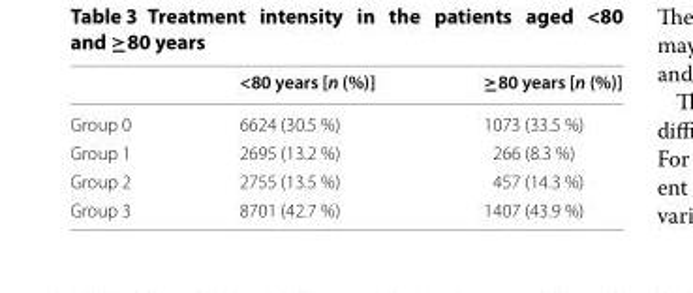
<table><thead><tr><td></td><td>&lt;80 years [n (%)]</td><td>≥80 years [n (%)]</td></tr></thead><tbody><tr><td>Group 0</td><td>6624 (30.5 %)</td><td>1073 (33.5 %)</td></tr><tr><td>Group 1</td><td>2695 (13.2 %)</td><td>266 (8.3 %)</td></tr><tr><td>Group 2</td><td>2755 (13.5 %)</td><td>457 (14.3 %)</td></tr><tr><td>Group 3</td><td>8701 (42.7 %)</td><td>1407 (43.9 %)</td></tr></tbody></table>